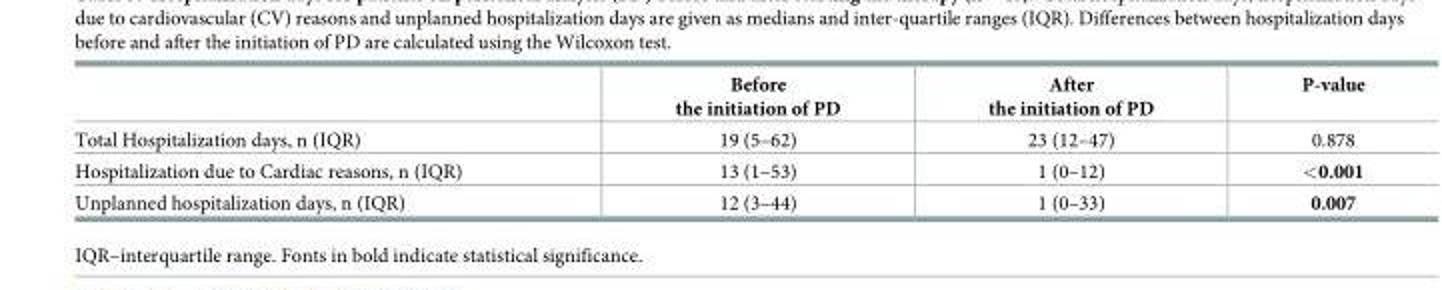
<table><thead><tr><td></td><td>Before the initiation of PD</td><td>After the initiation of PD</td><td>P-value</td></tr></thead><tbody><tr><td>Total Hospitalization days, n (IQR)</td><td>19 (5–62)</td><td>23 (12–47)</td><td>0.878</td></tr><tr><td>Hospitalization due to Cardiac reasons, n (IQR)</td><td>13 (1–53)</td><td>1 (0–12)</td><td>&lt;0.001</td></tr><tr><td>Unplanned hospitalization days, n (IQR)</td><td>12 (3–44)</td><td>1 (0–33)</td><td>0.007</td></tr></tbody></table>